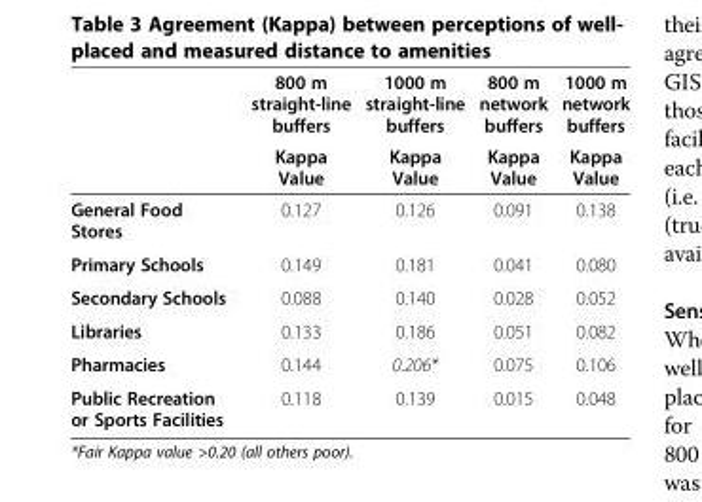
<table><thead><tr><td rowspan="2"></td><td rowspan="2">800 m straight-line buffers Kappa Value</td><td rowspan="2">1000 m straight-line buffers Kappa Value</td><td rowspan="2">800 m network buffers Kappa Value</td><td rowspan="2">1000 m network buffers Kappa Value</td></tr><tr></tr></thead><tbody><tr><td>General Food Stores</td><td>0.127</td><td>0.126</td><td>0.091</td><td>0.138</td></tr><tr><td>Primary Schools</td><td>0.149</td><td>0.181</td><td>0.041</td><td>0.080</td></tr><tr><td>Secondary Schools</td><td>0.088</td><td>0.140</td><td>0.028</td><td>0.052</td></tr><tr><td>Libraries</td><td>0.133</td><td>0.186</td><td>0.051</td><td>0.082</td></tr><tr><td>Pharmacies</td><td>0.144</td><td>0.206*</td><td>0.075</td><td>0.106</td></tr><tr><td>Public Recreation or Sports Facilities</td><td>0.118</td><td>0.139</td><td>0.015</td><td>0.048</td></tr></tbody></table>